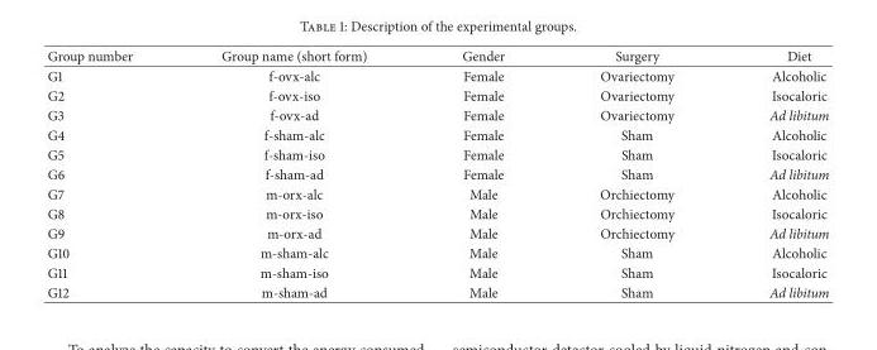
<table><thead><tr><td>Group number</td><td>Group name (short form)</td><td>Gender</td><td>Surgery</td><td>Diet</td></tr></thead><tbody><tr><td>G1</td><td>f-ovx-alc</td><td>Female</td><td>Ovariectomy</td><td>Alcoholic</td></tr><tr><td>G2</td><td>f-ovx-iso</td><td>Female</td><td>Ovariectomy</td><td>Isocaloric</td></tr><tr><td>G3</td><td>f-ovx-ad</td><td>Female</td><td>Ovariectomy</td><td>Ad libitum</td></tr><tr><td>G4</td><td>f-sham-alc</td><td>Female</td><td>Sham</td><td>Alcoholic</td></tr><tr><td>G5</td><td>f-sham-iso</td><td>Female</td><td>Sham</td><td>Isocaloric</td></tr><tr><td>G6</td><td>f-sham-ad</td><td>Female</td><td>Sham</td><td>Ad libitum</td></tr><tr><td>G7</td><td>m-orx-alc</td><td>Male</td><td>Orchiectomy</td><td>Alcoholic</td></tr><tr><td>G8</td><td>m-orx-iso</td><td>Male</td><td>Orchiectomy</td><td>Isocaloric</td></tr><tr><td>G9</td><td>m-orx-ad</td><td>Male</td><td>Orchiectomy</td><td>Ad libitum</td></tr><tr><td>G10</td><td>m-sham-alc</td><td>Male</td><td>Sham</td><td>Alcoholic</td></tr><tr><td>G11</td><td>m-sham-iso</td><td>Male</td><td>Sham</td><td>Isocaloric</td></tr><tr><td>G12</td><td>m-sham-ad</td><td>Male</td><td>Sham</td><td>Ad libitum</td></tr></tbody></table>